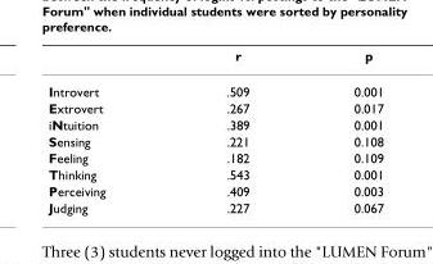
<table><thead><tr><td></td><td>r</td><td>p</td></tr></thead><tbody><tr><td>Introvert</td><td>.509</td><td>0.001</td></tr><tr><td>Extrovert</td><td>.267</td><td>0.017</td></tr><tr><td>iNtuition</td><td>.389</td><td>0.001</td></tr><tr><td>Sensing</td><td>.221</td><td>0.108</td></tr><tr><td>Feeling</td><td>.182</td><td>0.109</td></tr><tr><td>Thinking</td><td>.543</td><td>0.001</td></tr><tr><td>Perceiving</td><td>.409</td><td>0.003</td></tr><tr><td>Judging</td><td>.227</td><td>0.067</td></tr></tbody></table>